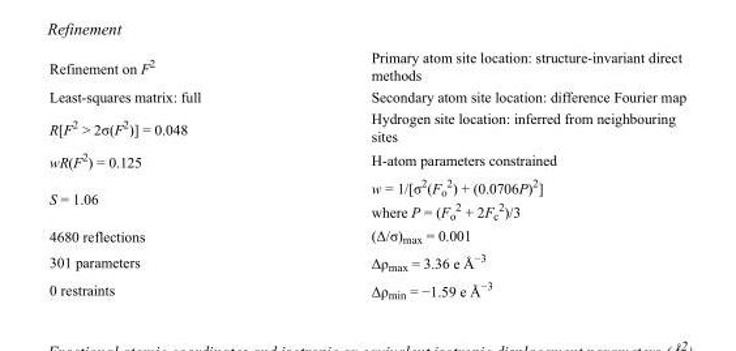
<table><tbody><tr><td>Refinement on F<sup>2</sup></td><td>Primary atom site location: structure-invariant direct methods</td></tr><tr><td>Least-squares matrix: full</td><td>Secondary atom site location: difference Fourier map</td></tr><tr><td>R[F<sup>2</sup> &gt; 2σ(F<sup>2</sup>)] = 0.048</td><td>Hydrogen site location: inferred from neighbouring sites</td></tr><tr><td>wR(F<sup>2</sup>) = 0.125</td><td>H-atom parameters constrained</td></tr><tr><td>S = 1.06</td><td>w = 1/[σ<sup>2</sup>(F<sub>o</sub> <sup>2</sup>) + (0.0706P)<sup>2</sup>] where P = (F<sub>o</sub> <sup>2</sup> + 2F<sub>c</sub> <sup>2</sup>)/3</td></tr><tr><td>4680 reflections</td><td>(Δ/σ)<sub>max</sub> = 0.001</td></tr><tr><td>301 parameters</td><td>Δρ<sub>max</sub> = 3.36 e Å<sup>−3</sup></td></tr><tr><td>0 restraints</td><td>Δρ<sub>min</sub> = −1.59 e Å<sup>−3</sup></td></tr></tbody></table>